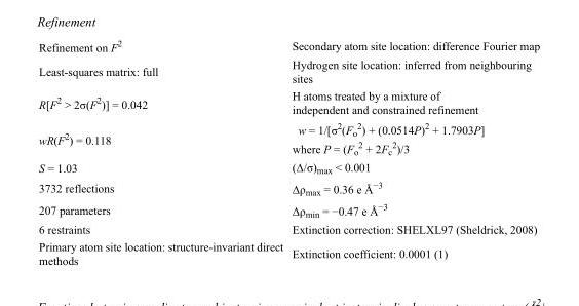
<table><tbody><tr><td>Refinement on F<sup>2</sup></td><td>Secondary atom site location: difference Fourier map</td></tr><tr><td>Least-squares matrix: full</td><td>Hydrogen site location: inferred from neighbouring sites</td></tr><tr><td>R[F<sup>2</sup> &gt; 2σ(F<sup>2</sup>)] = 0.042</td><td>H atoms treated by a mixture of independent and constrained refinement</td></tr><tr><td>wR(F<sup>2</sup>) = 0.118</td><td>w = 1/[σ<sup>2</sup>(F<sub>o</sub> <sup>2</sup>) + (0.0514P)<sup>2</sup> + 1.7903P] where P = (F<sub>o</sub> <sup>2</sup> + 2F<sub>c</sub> <sup>2</sup>)/3</td></tr><tr><td>S = 1.03</td><td>(Δ/σ)<sub>max</sub> &lt; 0.001</td></tr><tr><td>3732 reflections</td><td>Δρ<sub>max</sub> = 0.36 e Å<sup>−3</sup></td></tr><tr><td>207 parameters</td><td>Δρ<sub>min</sub> = −0.47 e Å<sup>−3</sup></td></tr><tr><td>6 restraints</td><td>Extinction correction: SHELXL97 (Sheldrick, 2008)</td></tr><tr><td>Primary atom site location: structure-invariant direct methods</td><td>Extinction coefficient: 0.0001 (1)</td></tr></tbody></table>